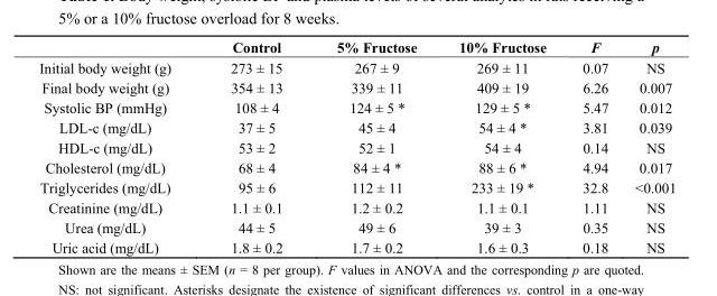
<table><thead><tr><td></td><td>Control</td><td>5% Fructose</td><td>10% Fructose</td><td>F</td><td>p</td></tr></thead><tbody><tr><td>Initial body weight (g)</td><td>273 ± 15</td><td>267 ± 9</td><td>269 ± 11</td><td>0.07</td><td>NS</td></tr><tr><td>Final body weight (g)</td><td>354 ± 13</td><td>339 ± 11</td><td>409 ± 19</td><td>6.26</td><td>0.007</td></tr><tr><td>Systolic BP (mmHg)</td><td>108 ± 4</td><td>124 ± 5 *</td><td>129 ± 5 *</td><td>5.47</td><td>0.012</td></tr><tr><td>LDL-c (mg/dL)</td><td>37 ± 5</td><td>45 ± 4</td><td>54 ± 4 *</td><td>3.81</td><td>0.039</td></tr><tr><td>HDL-c (mg/dL)</td><td>53 ± 2</td><td>52 ± 1</td><td>54 ± 4</td><td>0.14</td><td>NS</td></tr><tr><td>Cholesterol (mg/dL)</td><td>68 ± 4</td><td>84 ± 4 *</td><td>88 ± 6 *</td><td>4.94</td><td>0.017</td></tr><tr><td>Triglycerides (mg/dL)</td><td>95 ± 6</td><td>112 ± 11</td><td>233 ± 19 *</td><td>32.8</td><td>&lt;0.001</td></tr><tr><td>Creatinine (mg/dL)</td><td>1.1 ± 0.1</td><td>1.2 ± 0.2</td><td>1.1 ± 0.1</td><td>1.11</td><td>NS</td></tr><tr><td>Urea (mg/dL)</td><td>44 ± 5</td><td>49 ± 6</td><td>39 ± 3</td><td>0.35</td><td>NS</td></tr><tr><td>Uric acid (mg/dL)</td><td>1.8 ± 0.2</td><td>1.7 ± 0.2</td><td>1.6 ± 0.3</td><td>0.18</td><td>NS</td></tr></tbody></table>